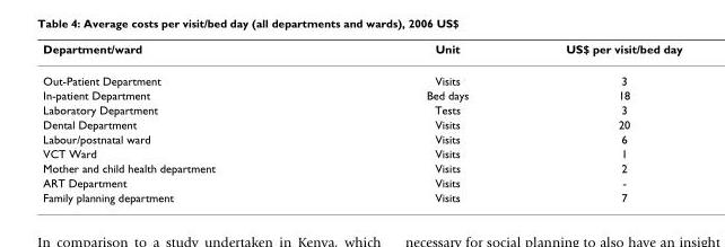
<table><thead><tr><td>Department/ward</td><td>Unit</td><td>US$ per visit/bed day</td></tr></thead><tbody><tr><td>Out-Patient Department</td><td>Visits</td><td>3</td></tr><tr><td>In-patient Department</td><td>Bed days</td><td>18</td></tr><tr><td>Laboratory Department</td><td>Tests</td><td>3</td></tr><tr><td>Dental Department</td><td>Visits</td><td>20</td></tr><tr><td>Labour/postnatal ward</td><td>Visits</td><td>6</td></tr><tr><td>VCT Ward</td><td>Visits</td><td>1</td></tr><tr><td>Mother and child health department</td><td>Visits</td><td>2</td></tr><tr><td>ART Department</td><td>Visits</td><td>-</td></tr><tr><td>Family planning department</td><td>Visits</td><td>7</td></tr></tbody></table>